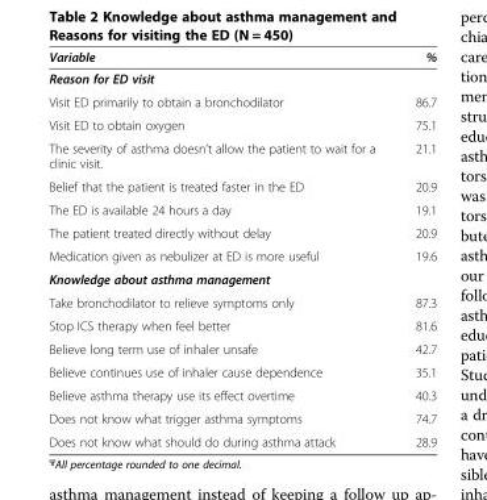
<table><thead><tr><td>Variable</td><td>%</td></tr></thead><tbody><tr><td colspan="2">Reason for ED visit</td></tr><tr><td>Visit ED primarily to obtain a bronchodilator</td><td>86.7</td></tr><tr><td>Visit ED to obtain oxygen</td><td>75.1</td></tr><tr><td>The severity of asthma doesn’t allow the patient to wait for a clinic visit.</td><td>21.1</td></tr><tr><td>Belief that the patient is treated faster in the ED</td><td>20.9</td></tr><tr><td>The ED is available 24 hours a day</td><td>19.1</td></tr><tr><td>The patient treated directly without delay</td><td>20.9</td></tr><tr><td>Medication given as nebulizer at ED is more useful</td><td>19.6</td></tr><tr><td colspan="2">Knowledge about asthma management</td></tr><tr><td>Take bronchodilator to relieve symptoms only</td><td>87.3</td></tr><tr><td>Stop ICS therapy when feel better</td><td>81.6</td></tr><tr><td>Believe long term use of inhaler unsafe</td><td>42.7</td></tr><tr><td>Believe continues use of inhaler cause dependence</td><td>35.1</td></tr><tr><td>Believe asthma therapy use its effect overtime</td><td>40.3</td></tr><tr><td>Does not know what trigger asthma symptoms</td><td>74.7</td></tr><tr><td>Does not know what should do during asthma attack</td><td>28.9</td></tr></tbody></table>